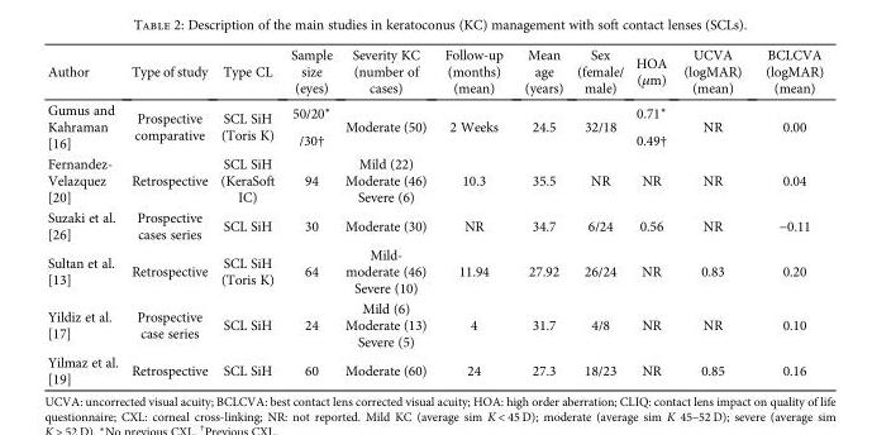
<table><thead><tr><td>Author</td><td>Type of study</td><td>Type CL</td><td>Sample size (eyes)</td><td>Severity KC (number of cases)</td><td>Follow-up (months) (mean)</td><td>Mean age (years)</td><td>Sex (female/ male)</td><td>HOA (μm)</td><td>UCVA (logMAR) (mean)</td><td>BCLCVA (logMAR) (mean)</td></tr></thead><tbody><tr><td>Gumus and Kahraman [16]</td><td>Prospective comparative</td><td>SCL SiH (Toris K)</td><td>50/20∗ /30†</td><td>Moderate (50)</td><td>2 Weeks</td><td>24.5</td><td>32/18</td><td>0.71∗ 0.49†</td><td>NR</td><td>0.00</td></tr><tr><td>Fernandez- Velazquez [20]</td><td>Retrospective</td><td>SCL SiH (KeraSoft IC)</td><td>94</td><td>Mild (22) Moderate (46) Severe (6)</td><td>10.3</td><td>35.5</td><td>NR</td><td>NR</td><td>NR</td><td>0.04</td></tr><tr><td>Suzaki et al. [26]</td><td>Prospective cases series</td><td>SCL SiH</td><td>30</td><td>Moderate (30)</td><td>NR</td><td>34.7</td><td>6/24</td><td>0.56</td><td>NR</td><td>−0.11</td></tr><tr><td>Sultan et al. [13]</td><td>Retrospective</td><td>SCL SiH (Toris K)</td><td>64</td><td>Mild- moderate (46) Severe (10)</td><td>11.94</td><td>27.92</td><td>26/24</td><td>NR</td><td>0.83</td><td>0.20</td></tr><tr><td>Yildiz et al. [17]</td><td>Prospective case series</td><td>SCL SiH</td><td>24</td><td>Mild (6) Moderate (13) Severe (5)</td><td>4</td><td>31.7</td><td>4/8</td><td>NR</td><td>NR</td><td>0.10</td></tr><tr><td>Yilmaz et al. [19]</td><td>Retrospective</td><td>SCL SiH</td><td>60</td><td>Moderate (60)</td><td>24</td><td>27.3</td><td>18/23</td><td>NR</td><td>0.85</td><td>0.16</td></tr></tbody></table>